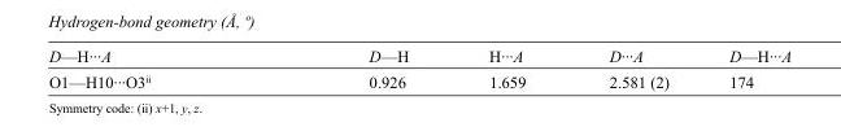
<table><tbody><tr><td>D—H···A</td><td>D—H</td><td>H···A</td><td>D···A</td><td>D—H···A</td></tr><tr><td>O1—H10···O3<sup>ii</sup></td><td>0.926</td><td>1.659</td><td>2.581 (2)</td><td>174</td></tr></tbody></table>